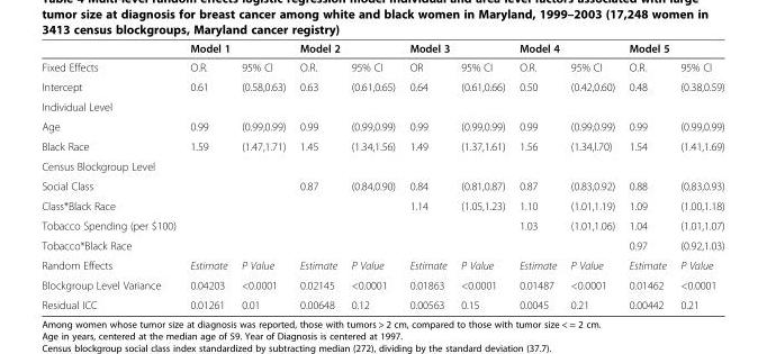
<table><thead><tr><td rowspan="2">Fixed Effects</td><td colspan="2">Model 1</td><td colspan="2">Model 2</td><td colspan="2">Model 3</td><td colspan="2">Model 4</td><td colspan="2">Model 5</td></tr><tr><td>O.R.</td><td>95% CI</td><td>O.R.</td><td>95% CI</td><td>OR</td><td>95% CI</td><td>O.R.</td><td>95% CI</td><td>O.R.</td><td>95% CI</td></tr></thead><tbody><tr><td>Intercept</td><td>0.61</td><td>(0.58,0.63)</td><td>0.63</td><td>(0.61,0.65)</td><td>0.64</td><td>(0.61,0.66)</td><td>0.50</td><td>(0.42,0.60)</td><td>0.48</td><td>(0.38,0.59)</td></tr><tr><td colspan="11">Individual Level</td></tr><tr><td>Age</td><td>0.99</td><td>(0.99,0.99)</td><td>0.99</td><td>(0.99,0.99)</td><td>0.99</td><td>(0.99,0.99)</td><td>0.99</td><td>(0.99,0.99)</td><td>0.99</td><td>(0.99,0.99)</td></tr><tr><td>Black Race</td><td>1.59</td><td>(1.47,1.71)</td><td>1.45</td><td>(1.34,1.56)</td><td>1.49</td><td>(1.37,1.61)</td><td>1.56</td><td>(1.34,l.70)</td><td>1.54</td><td>(1.41,1.69)</td></tr><tr><td colspan="11">Census Blockgroup Level</td></tr><tr><td>Social Class</td><td></td><td></td><td>0.87</td><td>(0.84,0.90)</td><td>0.84</td><td>(0.81,0.87)</td><td>0.87</td><td>(0.83,0.92)</td><td>0.88</td><td>(0.83,0.93)</td></tr><tr><td>Class*Black Race</td><td></td><td></td><td></td><td></td><td>1.14</td><td>(1.05,1.23)</td><td>1.10</td><td>(1.01,1.19)</td><td>1.09</td><td>(1.00,1.18)</td></tr><tr><td>Tobacco Spending (per $100)</td><td></td><td></td><td></td><td></td><td></td><td></td><td>1.03</td><td>(1.01,1.06)</td><td>1.04</td><td>(1.01,1.07)</td></tr><tr><td>Tobacco*Black Race</td><td></td><td></td><td></td><td></td><td></td><td></td><td></td><td></td><td>0.97</td><td>(0.92,1.03)</td></tr><tr><td>Random Effects</td><td>Estimate</td><td>P Value</td><td>Estimate</td><td>P Value</td><td>Estimate</td><td>P Value</td><td>Estimate</td><td>P Value</td><td>Estimate</td><td>P Value</td></tr><tr><td>Blockgroup Level Variance</td><td>0.04203</td><td>&lt;0.0001</td><td>0.02145</td><td>&lt;0.0001</td><td>0.01863</td><td>&lt;0.0001</td><td>0.01487</td><td>&lt;0.0001</td><td>0.01462</td><td>&lt;0.0001</td></tr><tr><td>Residual ICC</td><td>0.01261</td><td>0.01</td><td>0.00648</td><td>0.12</td><td>0.00563</td><td>0.15</td><td>0.0045</td><td>0.21</td><td>0.00442</td><td>0.21</td></tr></tbody></table>